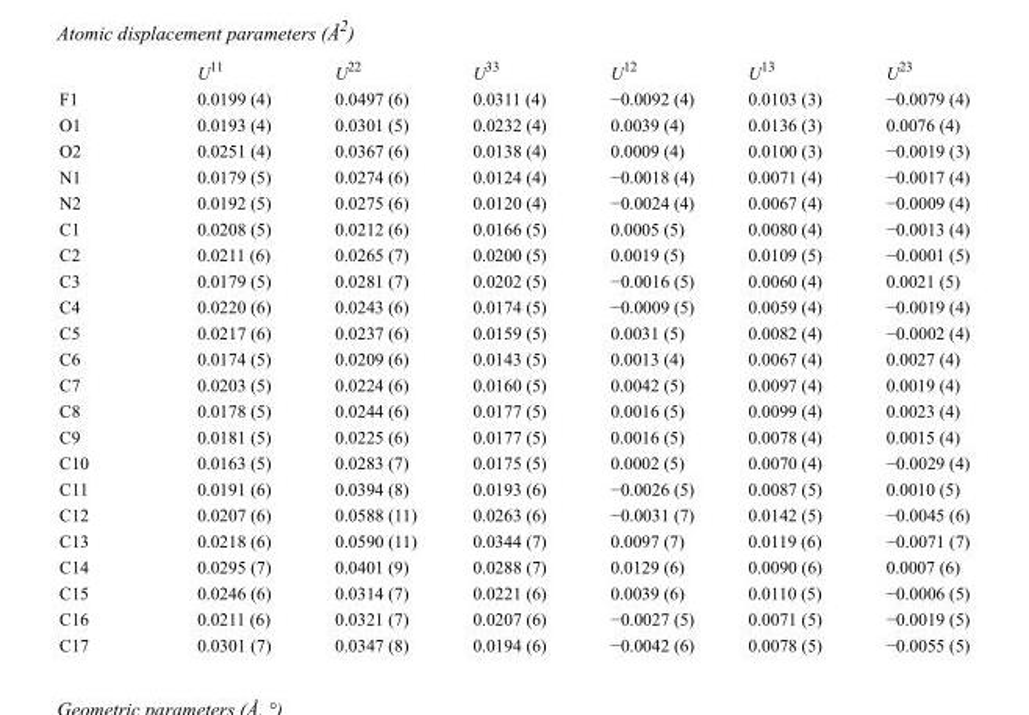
<table><thead><tr><td></td><td>U<sup>11</sup></td><td>U<sup>22</sup></td><td>U<sup>33</sup></td><td>U<sup>12</sup></td><td>U<sup>13</sup></td><td>U<sup>23</sup></td></tr></thead><tbody><tr><td>F1</td><td>0.0199 (4)</td><td>0.0497 (6)</td><td>0.0311 (4)</td><td>−0.0092 (4)</td><td>0.0103 (3)</td><td>−0.0079 (4)</td></tr><tr><td>O1</td><td>0.0193 (4)</td><td>0.0301 (5)</td><td>0.0232 (4)</td><td>0.0039 (4)</td><td>0.0136 (3)</td><td>0.0076 (4)</td></tr><tr><td>O2</td><td>0.0251 (4)</td><td>0.0367 (6)</td><td>0.0138 (4)</td><td>0.0009 (4)</td><td>0.0100 (3)</td><td>−0.0019 (3)</td></tr><tr><td>N1</td><td>0.0179 (5)</td><td>0.0274 (6)</td><td>0.0124 (4)</td><td>−0.0018 (4)</td><td>0.0071 (4)</td><td>−0.0017 (4)</td></tr><tr><td>N2</td><td>0.0192 (5)</td><td>0.0275 (6)</td><td>0.0120 (4)</td><td>−0.0024 (4)</td><td>0.0067 (4)</td><td>−0.0009 (4)</td></tr><tr><td>C1</td><td>0.0208 (5)</td><td>0.0212 (6)</td><td>0.0166 (5)</td><td>0.0005 (5)</td><td>0.0080 (4)</td><td>−0.0013 (4)</td></tr><tr><td>C2</td><td>0.0211 (6)</td><td>0.0265 (7)</td><td>0.0200 (5)</td><td>0.0019 (5)</td><td>0.0109 (5)</td><td>−0.0001 (5)</td></tr><tr><td>C3</td><td>0.0179 (5)</td><td>0.0281 (7)</td><td>0.0202 (5)</td><td>−0.0016 (5)</td><td>0.0060 (4)</td><td>0.0021 (5)</td></tr><tr><td>C4</td><td>0.0220 (6)</td><td>0.0243 (6)</td><td>0.0174 (5)</td><td>−0.0009 (5)</td><td>0.0059 (4)</td><td>−0.0019 (4)</td></tr><tr><td>C5</td><td>0.0217 (6)</td><td>0.0237 (6)</td><td>0.0159 (5)</td><td>0.0031 (5)</td><td>0.0082 (4)</td><td>−0.0002 (4)</td></tr><tr><td>C6</td><td>0.0174 (5)</td><td>0.0209 (6)</td><td>0.0143 (5)</td><td>0.0013 (4)</td><td>0.0067 (4)</td><td>0.0027 (4)</td></tr><tr><td>C7</td><td>0.0203 (5)</td><td>0.0224 (6)</td><td>0.0160 (5)</td><td>0.0042 (5)</td><td>0.0097 (4)</td><td>0.0019 (4)</td></tr><tr><td>C8</td><td>0.0178 (5)</td><td>0.0244 (6)</td><td>0.0177 (5)</td><td>0.0016 (5)</td><td>0.0099 (4)</td><td>0.0023 (4)</td></tr><tr><td>C9</td><td>0.0181 (5)</td><td>0.0225 (6)</td><td>0.0177 (5)</td><td>0.0016 (5)</td><td>0.0078 (4)</td><td>0.0015 (4)</td></tr><tr><td>C10</td><td>0.0163 (5)</td><td>0.0283 (7)</td><td>0.0175 (5)</td><td>0.0002 (5)</td><td>0.0070 (4)</td><td>−0.0029 (4)</td></tr><tr><td>C11</td><td>0.0191 (6)</td><td>0.0394 (8)</td><td>0.0193 (6)</td><td>−0.0026 (5)</td><td>0.0087 (5)</td><td>0.0010 (5)</td></tr><tr><td>C12</td><td>0.0207 (6)</td><td>0.0588 (11)</td><td>0.0263 (6)</td><td>−0.0031 (7)</td><td>0.0142 (5)</td><td>−0.0045 (6)</td></tr><tr><td>C13</td><td>0.0218 (6)</td><td>0.0590 (11)</td><td>0.0344 (7)</td><td>0.0097 (7)</td><td>0.0119 (6)</td><td>−0.0071 (7)</td></tr><tr><td>C14</td><td>0.0295 (7)</td><td>0.0401 (9)</td><td>0.0288 (7)</td><td>0.0129 (6)</td><td>0.0090 (6)</td><td>0.0007 (6)</td></tr><tr><td>C15</td><td>0.0246 (6)</td><td>0.0314 (7)</td><td>0.0221 (6)</td><td>0.0039 (6)</td><td>0.0110 (5)</td><td>−0.0006 (5)</td></tr><tr><td>C16</td><td>0.0211 (6)</td><td>0.0321 (7)</td><td>0.0207 (6)</td><td>−0.0027 (5)</td><td>0.0071 (5)</td><td>−0.0019 (5)</td></tr><tr><td>C17</td><td>0.0301 (7)</td><td>0.0347 (8)</td><td>0.0194 (6)</td><td>−0.0042 (6)</td><td>0.0078 (5)</td><td>−0.0055 (5)</td></tr></tbody></table>